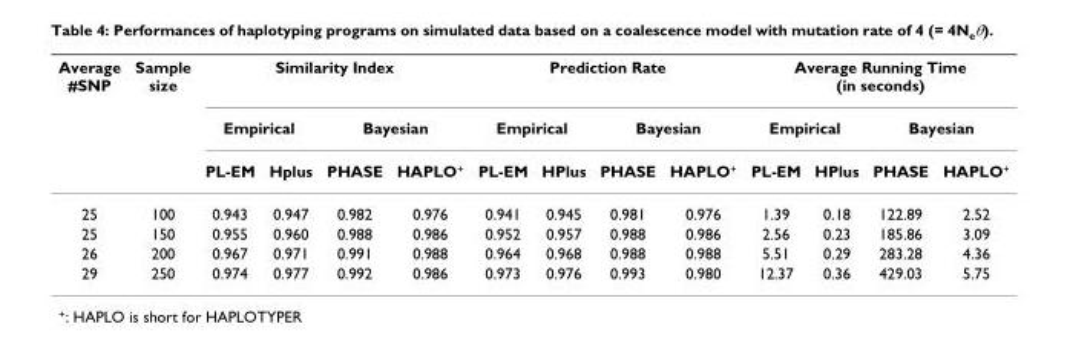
<table><thead><tr><td rowspan="3">Average #SNP</td><td rowspan="3">Sample size</td><td colspan="4">Similarity Index</td><td colspan="4">Prediction Rate</td><td colspan="4">Average Running Time (in seconds)</td></tr><tr><td colspan="2">Empirical</td><td colspan="2">Bayesian</td><td colspan="2">Empirical</td><td colspan="2">Bayesian</td><td colspan="2">Empirical</td><td colspan="2">Bayesian</td></tr><tr><td>PL-EM</td><td>Hplus</td><td>PHASE</td><td>HAPLO<sup>+</sup></td><td>PL-EM</td><td>HPlus</td><td>PHASE</td><td>HAPLO<sup>+</sup></td><td>PL-EM</td><td>HPlus</td><td>PHASE</td><td>HAPLO<sup>+</sup></td></tr></thead><tbody><tr><td>25</td><td>100</td><td>0.943</td><td>0.947</td><td>0.982</td><td>0.976</td><td>0.941</td><td>0.945</td><td>0.981</td><td>0.976</td><td>1.39</td><td>0.18</td><td>122.89</td><td>2.52</td></tr><tr><td>25</td><td>150</td><td>0.955</td><td>0.960</td><td>0.988</td><td>0.986</td><td>0.952</td><td>0.957</td><td>0.988</td><td>0.986</td><td>2.56</td><td>0.23</td><td>185.86</td><td>3.09</td></tr><tr><td>26</td><td>200</td><td>0.967</td><td>0.971</td><td>0.991</td><td>0.988</td><td>0.964</td><td>0.968</td><td>0.988</td><td>0.988</td><td>5.51</td><td>0.29</td><td>283.28</td><td>4.36</td></tr><tr><td>29</td><td>250</td><td>0.974</td><td>0.977</td><td>0.992</td><td>0.986</td><td>0.973</td><td>0.976</td><td>0.993</td><td>0.980</td><td>12.37</td><td>0.36</td><td>429.03</td><td>5.75</td></tr></tbody></table>